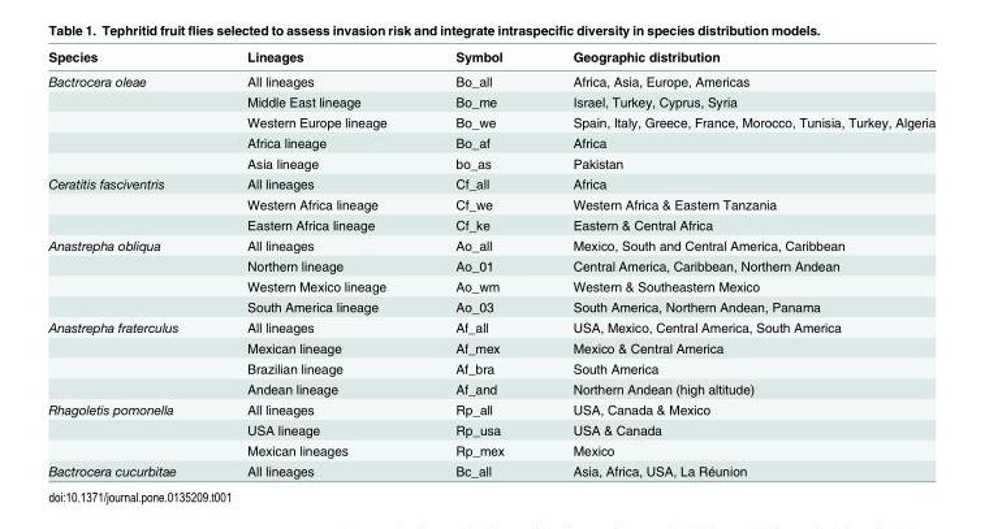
<table><thead><tr><td>Species</td><td>Lineages</td><td>Symbol</td><td>Geographic distribution</td></tr></thead><tbody><tr><td rowspan="5">Bactrocera oleae</td><td>All lineages</td><td>Bo_all</td><td>Africa, Asia, Europe, Americas</td></tr><tr><td>Middle East lineage</td><td>Bo_me</td><td>Israel, Turkey, Cyprus, Syria</td></tr><tr><td>Western Europe lineage</td><td>Bo_we</td><td>Spain, Italy, Greece, France, Morocco, Tunisia, Turkey, Algeria</td></tr><tr><td>Africa lineage</td><td>Bo_af</td><td>Africa</td></tr><tr><td>Asia lineage</td><td>bo_as</td><td>Pakistan</td></tr><tr><td rowspan="3">Ceratitis fasciventris</td><td>All lineages</td><td>Cf_all</td><td>Africa</td></tr><tr><td>Western Africa lineage</td><td>Cf_we</td><td>Western Africa &amp; Eastern Tanzania</td></tr><tr><td>Eastern Africa lineage</td><td>Cf_ke</td><td>Eastern &amp; Central Africa</td></tr><tr><td rowspan="4">Anastrepha obliqua</td><td>All lineages</td><td>Ao_all</td><td>Mexico, South and Central America, Caribbean</td></tr><tr><td>Northern lineage</td><td>Ao_01</td><td>Central America, Caribbean, Northern Andean</td></tr><tr><td>Western Mexico lineage</td><td>Ao_wm</td><td>Western &amp; Southeastern Mexico</td></tr><tr><td>South America lineage</td><td>Ao_03</td><td>South America, Northern Andean, Panama</td></tr><tr><td rowspan="4">Anastrepha fraterculus</td><td>All lineages</td><td>Af_all</td><td>USA, Mexico, Central America, South America</td></tr><tr><td>Mexican lineage</td><td>Af_mex</td><td>Mexico &amp; Central America</td></tr><tr><td>Brazilian lineage</td><td>Af_bra</td><td>South America</td></tr><tr><td>Andean lineage</td><td>Af_and</td><td>Northern Andean (high altitude)</td></tr><tr><td rowspan="3">Rhagoletis pomonella</td><td>All lineages</td><td>Rp_all</td><td>USA, Canada &amp; Mexico</td></tr><tr><td>USA lineage</td><td>Rp_usa</td><td>USA &amp; Canada</td></tr><tr><td>Mexican lineages</td><td>Rp_mex</td><td>Mexico</td></tr><tr><td>Bactrocera cucurbitae</td><td>All lineages</td><td>Bc_all</td><td>Asia, Africa, USA, La Réunion</td></tr></tbody></table>